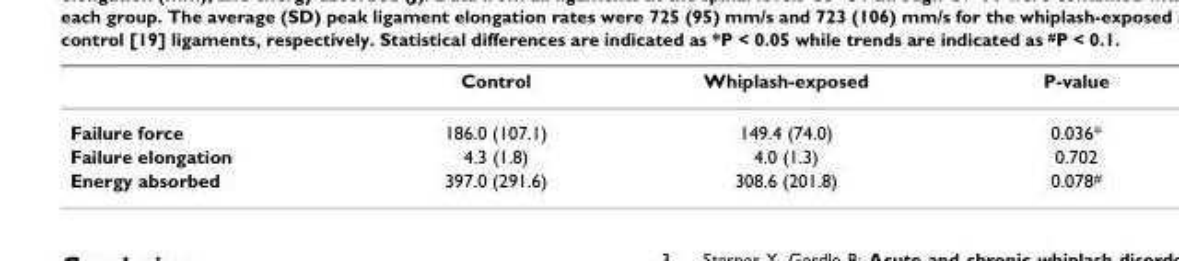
<table><thead><tr><td></td><td>Control</td><td>Whiplash-exposed</td><td>P-value</td></tr></thead><tbody><tr><td>Failure force</td><td>186.0 (107.1)</td><td>149.4 (74.0)</td><td>0.036*</td></tr><tr><td>Failure elongation</td><td>4.3 (1.8)</td><td>4.0 (1.3)</td><td>0.702</td></tr><tr><td>Energy absorbed</td><td>397.0 (291.6)</td><td>308.6 (201.8)</td><td>0.078#</td></tr></tbody></table>